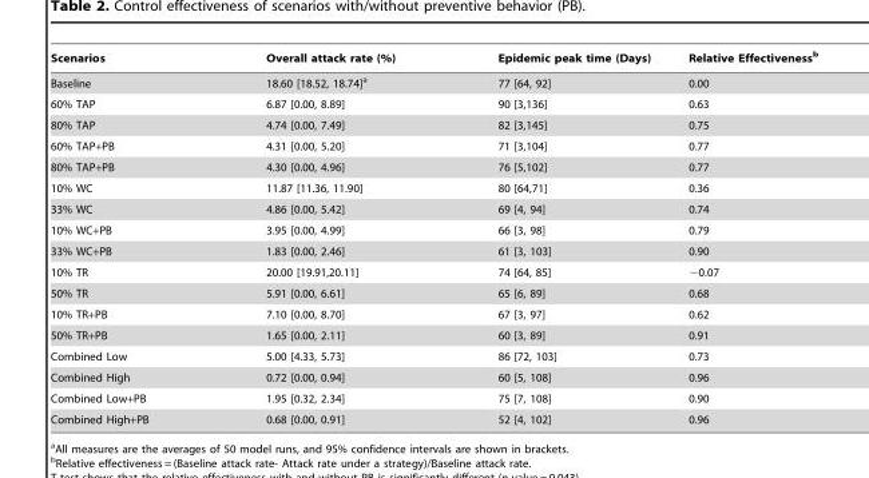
<table><thead><tr><td>Scenarios</td><td>Overall attack rate (%)</td><td>Epidemic peak time (Days)</td><td>Relative Effectiveness<sup>b</sup></td></tr></thead><tbody><tr><td>Baseline</td><td>18.60 [18.52, 18.74]<sup>a</sup></td><td>77 [64, 92]</td><td>0.00</td></tr><tr><td>60% TAP</td><td>6.87 [0.00, 8.89]</td><td>90 [3,136]</td><td>0.63</td></tr><tr><td>80% TAP</td><td>4.74 [0.00, 7.49]</td><td>82 [3,145]</td><td>0.75</td></tr><tr><td>60% TAP+PB</td><td>4.31 [0.00, 5.20]</td><td>71 [3,104]</td><td>0.77</td></tr><tr><td>80% TAP+PB</td><td>4.30 [0.00, 4.96]</td><td>76 [5,102]</td><td>0.77</td></tr><tr><td>10% WC</td><td>11.87 [11.36, 11.90]</td><td>80 [64,71]</td><td>0.36</td></tr><tr><td>33% WC</td><td>4.86 [0.00, 5.42]</td><td>69 [4, 94]</td><td>0.74</td></tr><tr><td>10% WC+PB</td><td>3.95 [0.00, 4.99]</td><td>66 [3, 98]</td><td>0.79</td></tr><tr><td>33% WC+PB</td><td>1.83 [0.00, 2.46]</td><td>61 [3, 103]</td><td>0.90</td></tr><tr><td>10% TR</td><td>20.00 [19.91,20.11]</td><td>74 [64, 85]</td><td>−0.07</td></tr><tr><td>50% TR</td><td>5.91 [0.00, 6.61]</td><td>65 [6, 89]</td><td>0.68</td></tr><tr><td>10% TR+PB</td><td>7.10 [0.00, 8.70]</td><td>67 [3, 97]</td><td>0.62</td></tr><tr><td>50% TR+PB</td><td>1.65 [0.00, 2.11]</td><td>60 [3, 89]</td><td>0.91</td></tr><tr><td>Combined Low</td><td>5.00 [4.33, 5.73]</td><td>86 [72, 103]</td><td>0.73</td></tr><tr><td>Combined High</td><td>0.72 [0.00, 0.94]</td><td>60 [5, 108]</td><td>0.96</td></tr><tr><td>Combined Low+PB</td><td>1.95 [0.32, 2.34]</td><td>75 [7, 108]</td><td>0.90</td></tr><tr><td>Combined High+PB</td><td>0.68 [0.00, 0.91]</td><td>52 [4, 102]</td><td>0.96</td></tr></tbody></table>